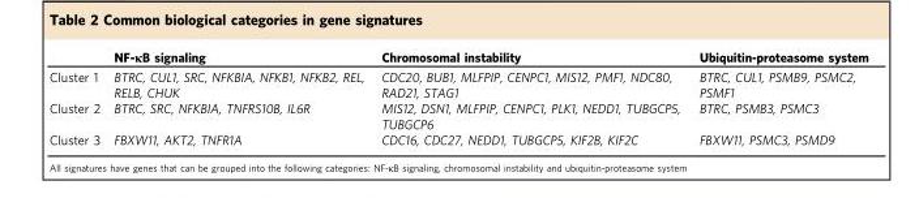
<table><thead><tr><td></td><td>NF-κB signaling</td><td>Chromosomal instability</td><td>Ubiquitin-proteasome system</td></tr></thead><tbody><tr><td>Cluster 1</td><td>BTRC, CUL1, SRC, NFKBIA, NFKB1, NFKB2, REL, RELB, CHUK</td><td>CDC20, BUB1, MLFPIP, CENPC1, MIS12, PMF1, NDC80, RAD21, STAG1</td><td>BTRC, CUL1, PSMB9, PSMC2, PSMF1</td></tr><tr><td>Cluster 2</td><td>BTRC, SRC, NFKBIA, TNFRS10B, IL6R</td><td>MIS12, DSN1, MLFPIP, CENPC1, PLK1, NEDD1, TUBGCP5, TUBGCP6</td><td>BTRC, PSMB3, PSMC3</td></tr><tr><td>Cluster 3</td><td>FBXW11, AKT2, TNFR1A</td><td>CDC16, CDC27, NEDD1, TUBGCP5, KIF2B, KIF2C</td><td>FBXW11, PSMC3, PSMD9</td></tr></tbody></table>